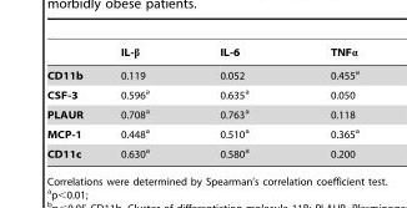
<table><thead><tr><td></td><td>IL-β</td><td>IL-6</td><td>TNFα</td></tr></thead><tbody><tr><td>CD11b</td><td>0.119</td><td>0.052</td><td>0.455<sup>a</sup></td></tr><tr><td>CSF-3</td><td>0.596<sup>a</sup></td><td>0.635<sup>a</sup></td><td>0.050</td></tr><tr><td>PLAUR</td><td>0.708<sup>a</sup></td><td>0.763<sup>a</sup></td><td>0.118</td></tr><tr><td>MCP-1</td><td>0.448<sup>a</sup></td><td>0.510<sup>a</sup></td><td>0.365<sup>a</sup></td></tr><tr><td>CD11c</td><td>0.630<sup>a</sup></td><td>0.580<sup>a</sup></td><td>0.200</td></tr></tbody></table>